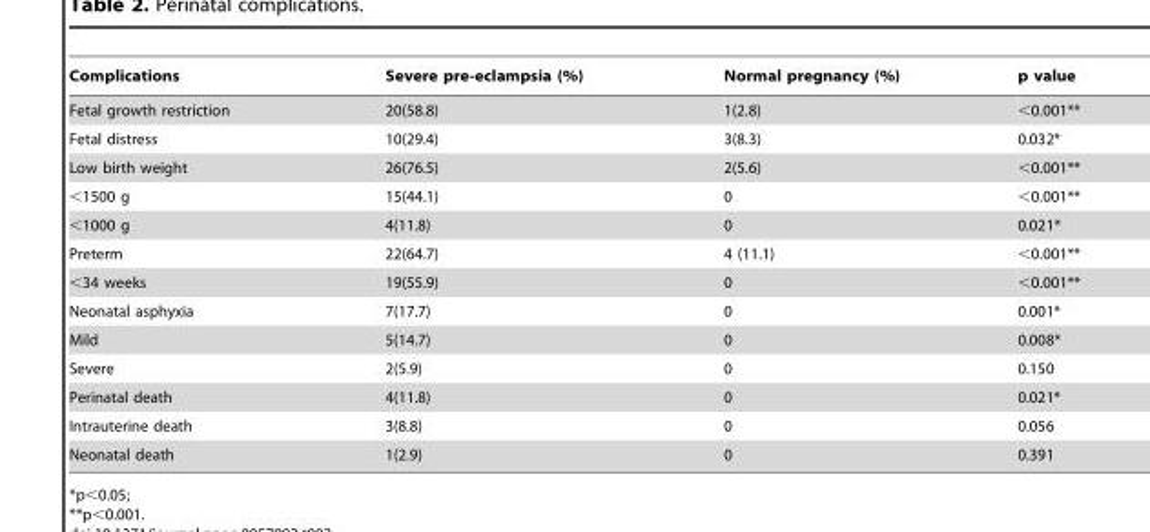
<table><thead><tr><td>Complications</td><td>Severe pre-eclampsia (%)</td><td>Normal pregnancy (%)</td><td>p value</td></tr></thead><tbody><tr><td>Fetal growth restriction</td><td>20(58.8)</td><td>1(2.8)</td><td>&lt;0.001**</td></tr><tr><td>Fetal distress</td><td>10(29.4)</td><td>3(8.3)</td><td>0.032*</td></tr><tr><td>Low birth weight</td><td>26(76.5)</td><td>2(5.6)</td><td>&lt;0.001**</td></tr><tr><td>&lt;1500 g</td><td>15(44.1)</td><td>0</td><td>&lt;0.001**</td></tr><tr><td>&lt;1000 g</td><td>4(11.8)</td><td>0</td><td>0.021*</td></tr><tr><td>Preterm</td><td>22(64.7)</td><td>4 (11.1)</td><td>&lt;0.001**</td></tr><tr><td>&lt;34 weeks</td><td>19(55.9)</td><td>0</td><td>&lt;0.001**</td></tr><tr><td>Neonatal asphyxia</td><td>7(17.7)</td><td>0</td><td>0.001*</td></tr><tr><td>Mild</td><td>5(14.7)</td><td>0</td><td>0.008*</td></tr><tr><td>Severe</td><td>2(5.9)</td><td>0</td><td>0.150</td></tr><tr><td>Perinatal death</td><td>4(11.8)</td><td>0</td><td>0.021*</td></tr><tr><td>Intrauterine death</td><td>3(8.8)</td><td>0</td><td>0.056</td></tr><tr><td>Neonatal death</td><td>1(2.9)</td><td>0</td><td>0.391</td></tr></tbody></table>